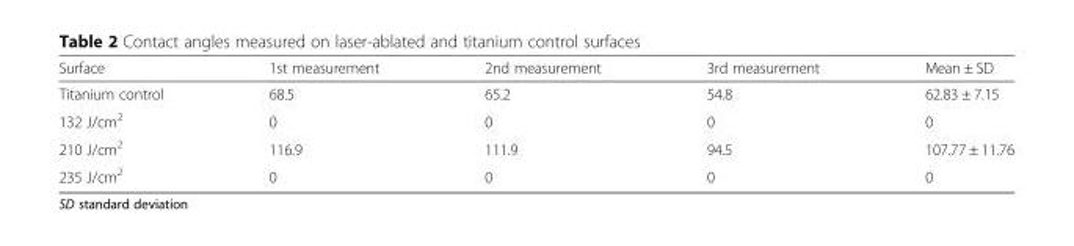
<table><thead><tr><td>Surface</td><td>1st measurement</td><td>2nd measurement</td><td>3rd measurement</td><td>Mean ± SD</td></tr></thead><tbody><tr><td>Titanium control</td><td>68.5</td><td>65.2</td><td>54.8</td><td>62.83 ± 7.15</td></tr><tr><td>132 J/cm<sup>2</sup></td><td>0</td><td>0</td><td>0</td><td>0</td></tr><tr><td>210 J/cm<sup>2</sup></td><td>116.9</td><td>111.9</td><td>94.5</td><td>107.77 ± 11.76</td></tr><tr><td>235 J/cm<sup>2</sup></td><td>0</td><td>0</td><td>0</td><td>0</td></tr></tbody></table>